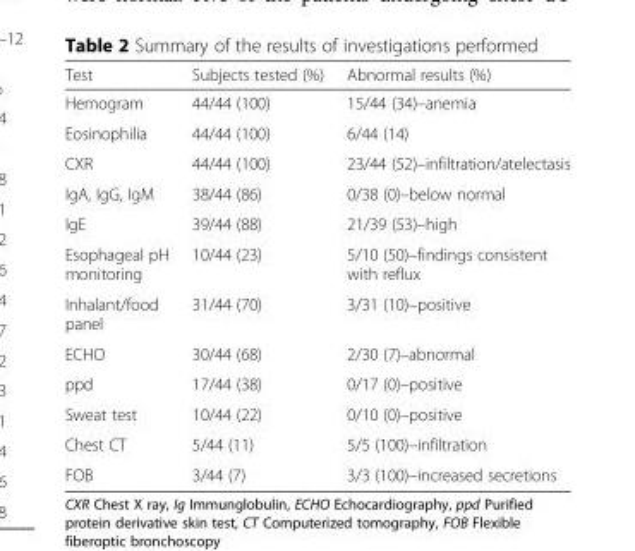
<table><thead><tr><td>Test</td><td>Subjects tested (%)</td><td>Abnormal results (%)</td></tr></thead><tbody><tr><td>Hemogram</td><td>44/44 (100)</td><td>15/44 (34)–anemia</td></tr><tr><td>Eosinophilia</td><td>44/44 (100)</td><td>6/44 (14)</td></tr><tr><td>CXR</td><td>44/44 (100)</td><td>23/44 (52)–infiltration/atelectasis</td></tr><tr><td>IgA, IgG, IgM</td><td>38/44 (86)</td><td>0/38 (0)–below normal</td></tr><tr><td>IgE</td><td>39/44 (88)</td><td>21/39 (53)–high</td></tr><tr><td>Esophageal pH monitoring</td><td>10/44 (23)</td><td>5/10 (50)–findings consistent with reflux</td></tr><tr><td>Inhalant/food panel</td><td>31/44 (70)</td><td>3/31 (10)–positive</td></tr><tr><td>ECHO</td><td>30/44 (68)</td><td>2/30 (7)–abnormal</td></tr><tr><td>ppd</td><td>17/44 (38)</td><td>0/17 (0)–positive</td></tr><tr><td>Sweat test</td><td>10/44 (22)</td><td>0/10 (0)–positive</td></tr><tr><td>Chest CT</td><td>5/44 (11)</td><td>5/5 (100)–infiltration</td></tr><tr><td>FOB</td><td>3/44 (7)</td><td>3/3 (100)–increased secretions</td></tr></tbody></table>